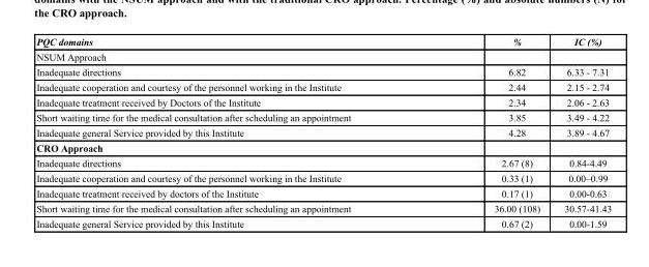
<table><thead><tr><td>PQC domains</td><td>%</td><td>IC (%)</td></tr></thead><tbody><tr><td colspan="3">NSUM Approach</td></tr><tr><td>Inadequate directions</td><td>6.82</td><td>6.33 - 7.31</td></tr><tr><td>Inadequate cooperation and courtesy of the personnel working in the Institute</td><td>2.44</td><td>2.15 - 2.74</td></tr><tr><td>Inadequate treatment received by Doctors of the Institute</td><td>2.34</td><td>2.06 - 2.63</td></tr><tr><td>Short waiting time for the medical consultation after scheduling an appointment</td><td>3.85</td><td>3.49 - 4.22</td></tr><tr><td>Inadequate general Service provided by this Institute</td><td>4.28</td><td>3.89 - 4.67</td></tr><tr><td colspan="3">CRO Approach</td></tr><tr><td>Inadequate directions</td><td>2.67 (8)</td><td>0.84-4.49</td></tr><tr><td>Inadequate cooperation and courtesy of the personnel working in the Institute</td><td>0.33 (1)</td><td>0.00–0.99</td></tr><tr><td>Inadequate treatment received by doctors of the Institute</td><td>0.17 (1)</td><td>0.00-0.63</td></tr><tr><td>Short waiting time for the medical consultation after scheduling an appointment</td><td>36.00 (108)</td><td>30.57-41.43</td></tr><tr><td>Inadequate general Service provided by this Institute</td><td>0.67 (2)</td><td>0.00-1.59</td></tr></tbody></table>